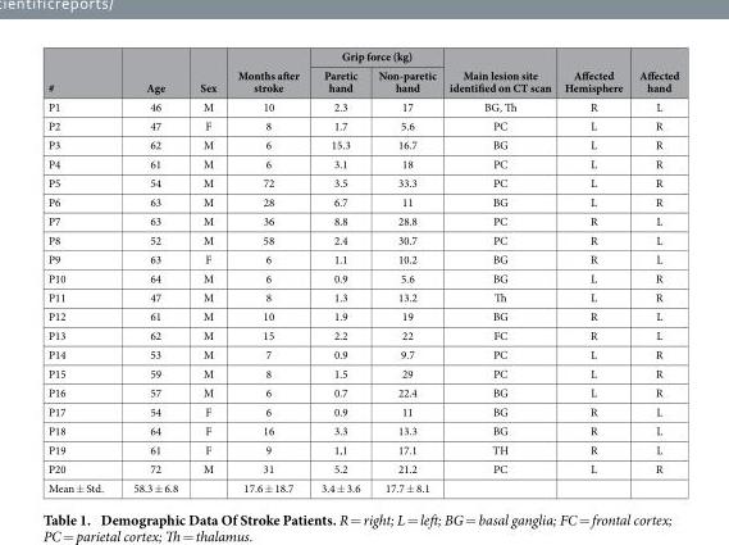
<table><thead><tr><td rowspan="2">#</td><td rowspan="2">Age</td><td rowspan="2">Sex</td><td rowspan="2">Months after stroke</td><td colspan="2">Grip force (kg)</td><td rowspan="2">Main lesion site identified on CT scan</td><td rowspan="2">Affected Hemisphere</td><td rowspan="2">Affected hand</td></tr><tr><td>Paretic hand</td><td>Non-paretic hand</td></tr></thead><tbody><tr><td>P1</td><td>46</td><td>M</td><td>10</td><td>2.3</td><td>17</td><td>BG, Th</td><td>R</td><td>L</td></tr><tr><td>P2</td><td>47</td><td>F</td><td>8</td><td>1.7</td><td>5.6</td><td>PC</td><td>L</td><td>R</td></tr><tr><td>P3</td><td>62</td><td>M</td><td>6</td><td>15.3</td><td>16.7</td><td>BG</td><td>L</td><td>R</td></tr><tr><td>P4</td><td>61</td><td>M</td><td>6</td><td>3.1</td><td>18</td><td>PC</td><td>L</td><td>R</td></tr><tr><td>P5</td><td>54</td><td>M</td><td>72</td><td>3.5</td><td>33.3</td><td>PC</td><td>L</td><td>R</td></tr><tr><td>P6</td><td>63</td><td>M</td><td>28</td><td>6.7</td><td>11</td><td>BG</td><td>L</td><td>R</td></tr><tr><td>P7</td><td>63</td><td>M</td><td>36</td><td>8.8</td><td>28.8</td><td>PC</td><td>R</td><td>L</td></tr><tr><td>P8</td><td>52</td><td>M</td><td>58</td><td>2.4</td><td>30.7</td><td>PC</td><td>R</td><td>L</td></tr><tr><td>P9</td><td>63</td><td>F</td><td>6</td><td>1.1</td><td>10.2</td><td>BG</td><td>R</td><td>L</td></tr><tr><td>P10</td><td>64</td><td>M</td><td>6</td><td>0.9</td><td>5.6</td><td>BG</td><td>L</td><td>R</td></tr><tr><td>P11</td><td>47</td><td>M</td><td>8</td><td>1.3</td><td>13.2</td><td>Th</td><td>L</td><td>R</td></tr><tr><td>P12</td><td>61</td><td>M</td><td>10</td><td>1.9</td><td>19</td><td>BG</td><td>R</td><td>L</td></tr><tr><td>P13</td><td>62</td><td>M</td><td>15</td><td>2.2</td><td>22</td><td>FC</td><td>R</td><td>L</td></tr><tr><td>P14</td><td>53</td><td>M</td><td>7</td><td>0.9</td><td>9.7</td><td>PC</td><td>L</td><td>R</td></tr><tr><td>P15</td><td>59</td><td>M</td><td>8</td><td>1.5</td><td>29</td><td>PC</td><td>L</td><td>R</td></tr><tr><td>P16</td><td>57</td><td>M</td><td>6</td><td>0.7</td><td>22.4</td><td>BG</td><td>L</td><td>R</td></tr><tr><td>P17</td><td>54</td><td>F</td><td>6</td><td>0.9</td><td>11</td><td>BG</td><td>R</td><td>L</td></tr><tr><td>P18</td><td>64</td><td>F</td><td>16</td><td>3.3</td><td>13.3</td><td>BG</td><td>R</td><td>L</td></tr><tr><td>P19</td><td>61</td><td>F</td><td>9</td><td>1,1</td><td>17.1</td><td>TH</td><td>R</td><td>L</td></tr><tr><td>P20</td><td>72</td><td>M</td><td>31</td><td>5.2</td><td>21.2</td><td>PC</td><td>L</td><td>R</td></tr><tr><td>Mean ± Std.</td><td>58.3 ± 6.8</td><td></td><td>17.6 ± 18.7</td><td>3.4 ± 3.6</td><td>17.7 ± 8.1</td><td></td><td></td><td></td></tr></tbody></table>